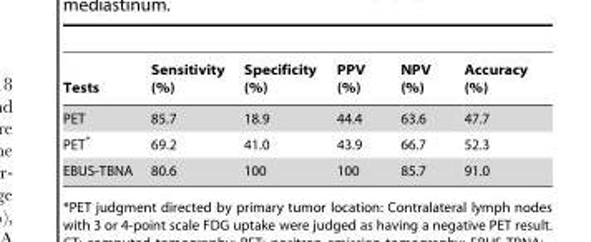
<table><thead><tr><td>Tests</td><td>Sensitivity (%)</td><td>Specificity (%)</td><td>PPV (%)</td><td>NPV (%)</td><td>Accuracy (%)</td></tr></thead><tbody><tr><td>PET</td><td>85.7</td><td>18.9</td><td>44.4</td><td>63.6</td><td>47.7</td></tr><tr><td>PET*</td><td>69.2</td><td>41.0</td><td>43.9</td><td>66.7</td><td>52.3</td></tr><tr><td>EBUS-TBNA</td><td>80.6</td><td>100</td><td>100</td><td>85.7</td><td>91.0</td></tr></tbody></table>